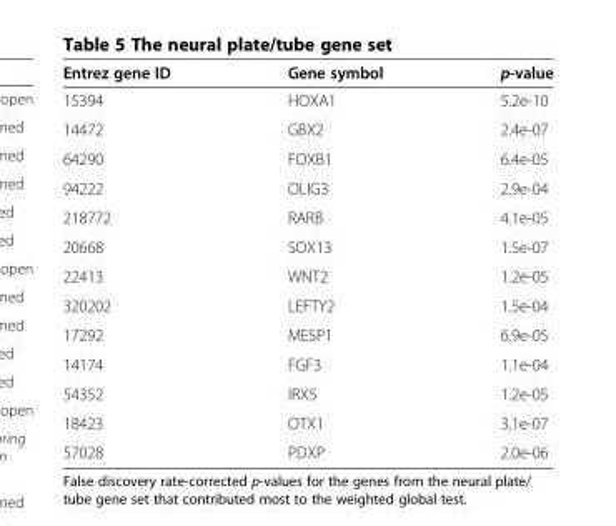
<table><thead><tr><td>Entrez gene ID</td><td>Gene symbol</td><td>p-value</td></tr></thead><tbody><tr><td>15394</td><td>HOXA1</td><td>5.2e-10</td></tr><tr><td>14472</td><td>GBX2</td><td>2.4e-07</td></tr><tr><td>64290</td><td>FOXB1</td><td>6.4e-05</td></tr><tr><td>94222</td><td>OLIG3</td><td>2.9e-04</td></tr><tr><td>218772</td><td>RARB</td><td>4.1e-05</td></tr><tr><td>20668</td><td>SOX13</td><td>1.5e-07</td></tr><tr><td>22413</td><td>WNT2</td><td>1.2e-05</td></tr><tr><td>320202</td><td>LEFTY2</td><td>1.5e-04</td></tr><tr><td>17292</td><td>MESP1</td><td>6.9e-05</td></tr><tr><td>14174</td><td>FGF3</td><td>1.1e-04</td></tr><tr><td>54352</td><td>IRX5</td><td>1.2e-05</td></tr><tr><td>18423</td><td>OTX1</td><td>3.1e-07</td></tr><tr><td>57028</td><td>PDXP</td><td>2.0e-06</td></tr></tbody></table>